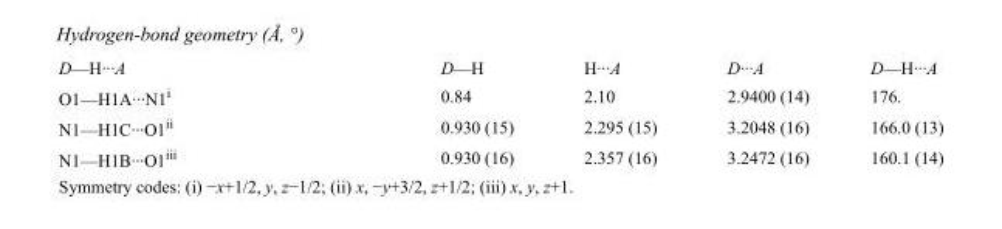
<table><tbody><tr><td>D—H···A</td><td>D—H</td><td>H···A</td><td>D···A</td><td>D—H···A</td></tr><tr><td>O1—H1A···N1<sup>i</sup></td><td>0.84</td><td>2.10</td><td>2.9400 (14)</td><td>176.</td></tr><tr><td>N1—H1C···O1<sup>ii</sup></td><td>0.930 (15)</td><td>2.295 (15)</td><td>3.2048 (16)</td><td>166.0 (13)</td></tr><tr><td>N1—H1B···O1<sup>iii</sup></td><td>0.930 (16)</td><td>2.357 (16)</td><td>3.2472 (16)</td><td>160.1 (14)</td></tr></tbody></table>